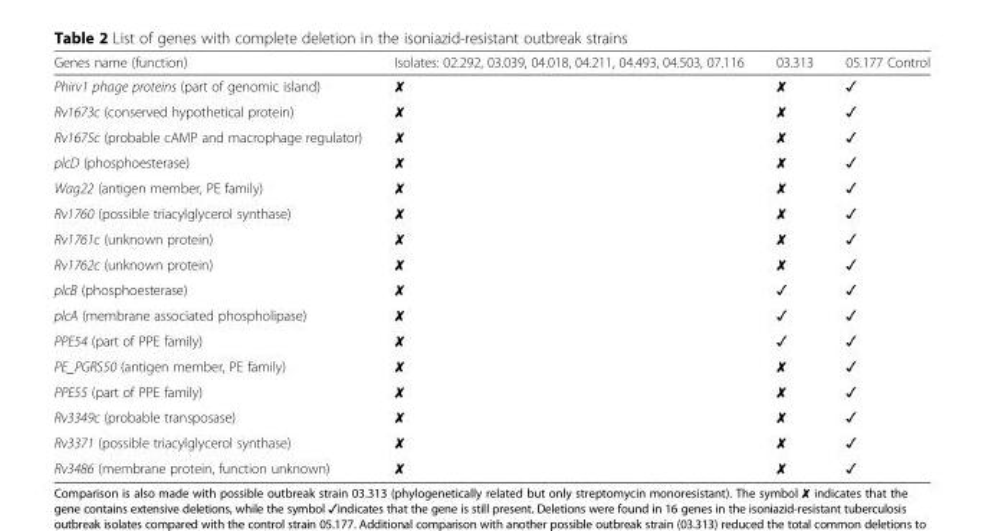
<table><thead><tr><td>Genes name (function)</td><td>Isolates: 02.292, 03.039, 04.018, 04.211, 04.493, 04.503, 07.116</td><td>03.313</td><td>05.177 Control</td></tr></thead><tbody><tr><td>Phirv1 phage proteins (part of genomic island)</td><td>✘</td><td>✘</td><td>✓</td></tr><tr><td>Rv1673c (conserved hypothetical protein)</td><td>✘</td><td>✘</td><td>✓</td></tr><tr><td>Rv1675c (probable cAMP and macrophage regulator)</td><td>✘</td><td>✘</td><td>✓</td></tr><tr><td>plcD (phosphoesterase)</td><td>✘</td><td>✘</td><td>✓</td></tr><tr><td>Wag22 (antigen member, PE family)</td><td>✘</td><td>✘</td><td>✓</td></tr><tr><td>Rv1760 (possible triacylglycerol synthase)</td><td>✘</td><td>✘</td><td>✓</td></tr><tr><td>Rv1761c (unknown protein)</td><td>✘</td><td>✘</td><td>✓</td></tr><tr><td>Rv1762c (unknown protein)</td><td>✘</td><td>✘</td><td>✓</td></tr><tr><td>plcB (phosphoesterase)</td><td>✘</td><td>✓</td><td>✓</td></tr><tr><td>plcA (membrane associated phospholipase)</td><td>✘</td><td>✓</td><td>✓</td></tr><tr><td>PPE54 (part of PPE family)</td><td>✘</td><td>✓</td><td>✓</td></tr><tr><td>PE_PGRS50 (antigen member, PE family)</td><td>✘</td><td>✘</td><td>✓</td></tr><tr><td>PPE55 (part of PPE family)</td><td>✘</td><td>✘</td><td>✓</td></tr><tr><td>Rv3349c (probable transposase)</td><td>✘</td><td>✘</td><td>✓</td></tr><tr><td>Rv3371 (possible triacylglycerol synthase)</td><td>✘</td><td>✘</td><td>✓</td></tr><tr><td>Rv3486 (membrane protein, function unknown)</td><td>✘</td><td>✘</td><td>✓</td></tr></tbody></table>